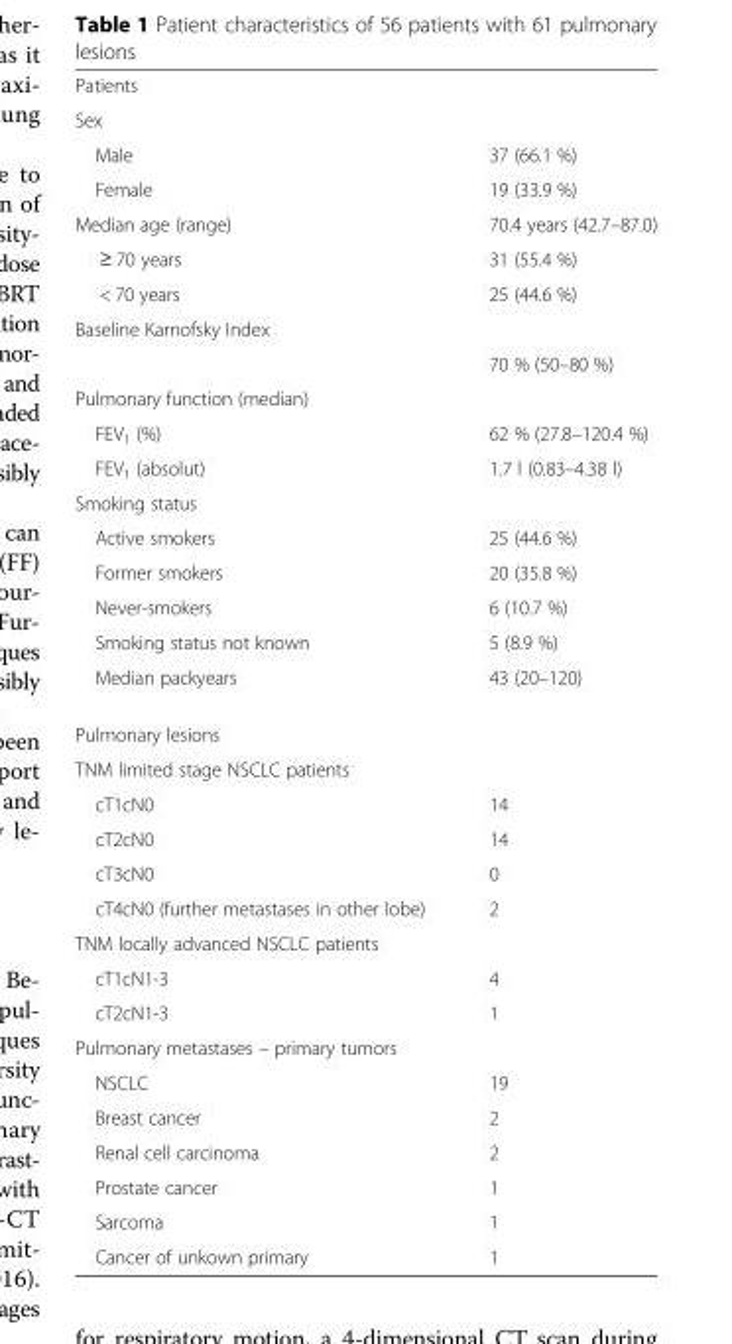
<table><tbody><tr><td colspan="2">Patients</td></tr><tr><td colspan="2">Sex</td></tr><tr><td>Male</td><td>37 (66.1 %)</td></tr><tr><td>Female</td><td>19 (33.9 %)</td></tr><tr><td>Median age (range)</td><td>70.4 years (42.7–87.0)</td></tr><tr><td>≥ 70 years</td><td>31 (55.4 %)</td></tr><tr><td>&lt; 70 years</td><td>25 (44.6 %)</td></tr><tr><td colspan="2">Baseline Karnofsky Index</td></tr><tr><td></td><td>70 % (50–80 %)</td></tr><tr><td colspan="2">Pulmonary function (median)</td></tr><tr><td>FEV<sub>1</sub> (%)</td><td>62 % (27.8–120.4 %)</td></tr><tr><td>FEV<sub>1</sub> (absolut)</td><td>1.7 l (0.83–4.38 l)</td></tr><tr><td colspan="2">Smoking status</td></tr><tr><td>Active smokers</td><td>25 (44.6 %)</td></tr><tr><td>Former smokers</td><td>20 (35.8 %)</td></tr><tr><td>Never-smokers</td><td>6 (10.7 %)</td></tr><tr><td>Smoking status not known</td><td>5 (8.9 %)</td></tr><tr><td>Median packyears</td><td>43 (20–120)</td></tr><tr><td colspan="2">Pulmonary lesions</td></tr><tr><td colspan="2">TNM limited stage NSCLC patients</td></tr><tr><td>cT1cN0</td><td>14</td></tr><tr><td>cT2cN0</td><td>14</td></tr><tr><td>cT3cN0</td><td>0</td></tr><tr><td>cT4cN0 (further metastases in other lobe)</td><td>2</td></tr><tr><td colspan="2">TNM locally advanced NSCLC patients</td></tr><tr><td>cT1cN1-3</td><td>4</td></tr><tr><td>cT2cN1-3</td><td>1</td></tr><tr><td colspan="2">Pulmonary metastases – primary tumors</td></tr><tr><td>NSCLC</td><td>19</td></tr><tr><td>Breast cancer</td><td>2</td></tr><tr><td>Renal cell carcinoma</td><td>2</td></tr><tr><td>Prostate cancer</td><td>1</td></tr><tr><td>Sarcoma</td><td>1</td></tr><tr><td>Cancer of unkown primary</td><td>1</td></tr></tbody></table>